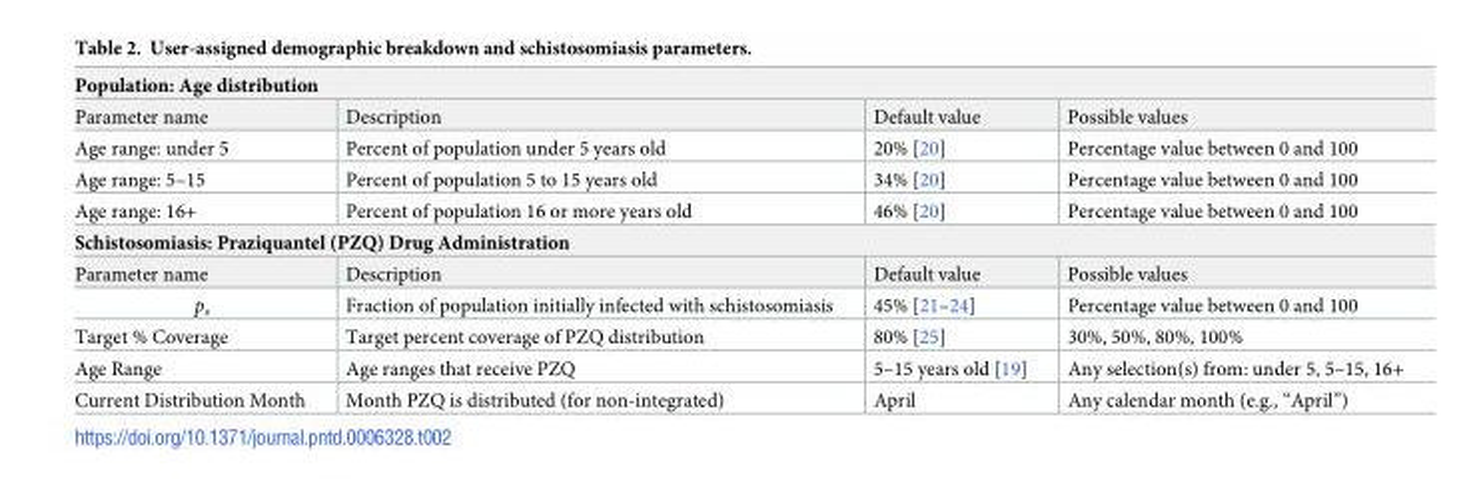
<table><tbody><tr><td colspan="4">Population: Age distribution</td></tr><tr><td>Parameter name</td><td>Description</td><td>Default value</td><td>Possible values</td></tr><tr><td>Age range: under 5</td><td>Percent of population under 5 years old</td><td>20% [20]</td><td>Percentage value between 0 and 100</td></tr><tr><td>Age range: 5–15</td><td>Percent of population 5 to 15 years old</td><td>34% [20]</td><td>Percentage value between 0 and 100</td></tr><tr><td>Age range: 16+</td><td>Percent of population 16 or more years old</td><td>46% [20]</td><td>Percentage value between 0 and 100</td></tr><tr><td colspan="4">Schistosomiasis: Praziquantel (PZQ) Drug Administration</td></tr><tr><td>Parameter name</td><td>Description</td><td>Default value</td><td>Possible values</td></tr><tr><td>p<sub>s</sub></td><td>Fraction of population initially infected with schistosomiasis</td><td>45% [21–24]</td><td>Percentage value between 0 and 100</td></tr><tr><td>Target % Coverage</td><td>Target percent coverage of PZQ distribution</td><td>80% [25]</td><td>30%, 50%, 80%, 100%</td></tr><tr><td>Age Range</td><td>Age ranges that receive PZQ</td><td>5–15 years old [19]</td><td>Any selection(s) from: under 5, 5–15, 16+</td></tr><tr><td>Current Distribution Month</td><td>Month PZQ is distributed (for non-integrated)</td><td>April</td><td>Any calendar month (e.g., “April”)</td></tr></tbody></table>